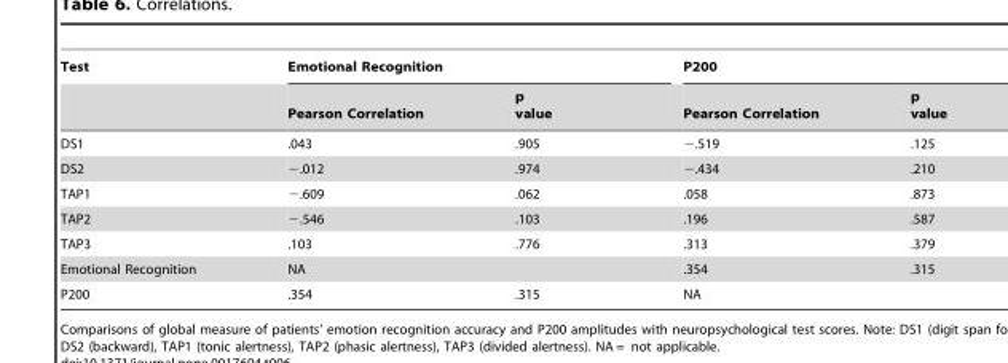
<table><thead><tr><td rowspan="2">Test</td><td colspan="2">Emotional Recognition</td><td colspan="2">P200</td></tr><tr><td>Pearson Correlation</td><td>p value</td><td>Pearson Correlation</td><td>p value</td></tr></thead><tbody><tr><td>DS1</td><td>.043</td><td>.905</td><td>−.519</td><td>.125</td></tr><tr><td>DS2</td><td>−.012</td><td>.974</td><td>−.434</td><td>.210</td></tr><tr><td>TAP1</td><td>−.609</td><td>.062</td><td>.058</td><td>.873</td></tr><tr><td>TAP2</td><td>−.546</td><td>.103</td><td>.196</td><td>.587</td></tr><tr><td>TAP3</td><td>.103</td><td>.776</td><td>.313</td><td>.379</td></tr><tr><td>Emotional Recognition</td><td>NA</td><td></td><td>.354</td><td>.315</td></tr><tr><td>P200</td><td>.354</td><td>.315</td><td>NA</td><td></td></tr></tbody></table>